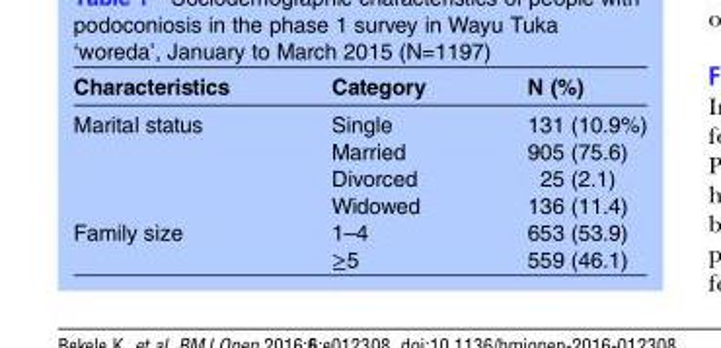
<table><thead><tr><td>Characteristics</td><td>Category</td><td>N (%)</td></tr></thead><tbody><tr><td rowspan="4">Marital status</td><td>Single</td><td>131 (10.9%)</td></tr><tr><td>Married</td><td>905 (75.6)</td></tr><tr><td>Divorced</td><td>25 (2.1)</td></tr><tr><td>Widowed</td><td>136 (11.4)</td></tr><tr><td rowspan="2">Family size</td><td>1–4</td><td>653 (53.9)</td></tr><tr><td>≥5</td><td>559 (46.1)</td></tr></tbody></table>